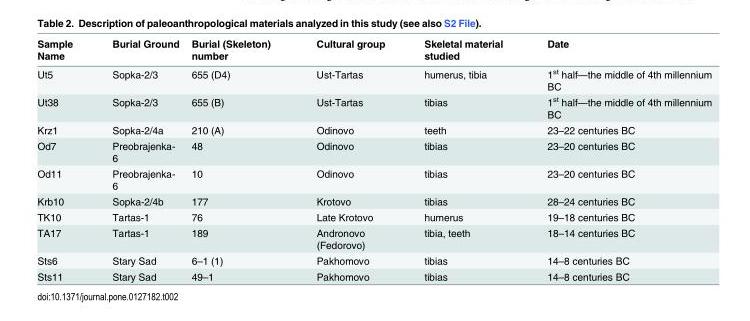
<table><thead><tr><td>Sample Name</td><td>Burial Ground</td><td>Burial (Skeleton) number</td><td>Cultural group</td><td>Skeletal material studied</td><td>Date</td></tr></thead><tbody><tr><td>Ut5</td><td>Sopka-2/3</td><td>655 (D4)</td><td>Ust-Tartas</td><td>humerus, tibia</td><td>1<sup>st</sup> half—the middle of 4th millennium BC</td></tr><tr><td>Ut38</td><td>Sopka-2/3</td><td>655 (B)</td><td>Ust-Tartas</td><td>tibias</td><td>1<sup>st</sup> half—the middle of 4th millennium BC</td></tr><tr><td>Krz1</td><td>Sopka-2/4a</td><td>210 (A)</td><td>Odinovo</td><td>teeth</td><td>23–22 centuries BC</td></tr><tr><td>Od7</td><td>Preobrajenka- 6</td><td>48</td><td>Odinovo</td><td>tibias</td><td>23–20 centuries BC</td></tr><tr><td>Od11</td><td>Preobrajenka- 6</td><td>10</td><td>Odinovo</td><td>tibias</td><td>23–20 centuries BC</td></tr><tr><td>Krb10</td><td>Sopka-2/4b</td><td>177</td><td>Krotovo</td><td>tibias</td><td>28–24 centuries BC</td></tr><tr><td>TK10</td><td>Tartas-1</td><td>76</td><td>Late Krotovo</td><td>humerus</td><td>19–18 centuries BC</td></tr><tr><td>TA17</td><td>Tartas-1</td><td>189</td><td>Andronovo (Fedorovo)</td><td>tibia, teeth</td><td>18–14 centuries BC</td></tr><tr><td>Sts6</td><td>Stary Sad</td><td>6–1 (1)</td><td>Pakhomovo</td><td>tibias</td><td>14–8 centuries BC</td></tr><tr><td>Sts11</td><td>Stary Sad</td><td>49–1</td><td>Pakhomovo</td><td>tibias</td><td>14–8 centuries BC</td></tr></tbody></table>